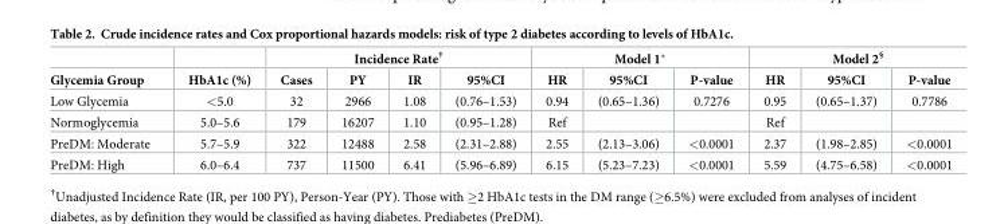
<table><thead><tr><td rowspan="2">Glycemia Group</td><td rowspan="2">HbA1c (%)</td><td colspan="4">Incidence Rate<sup>†</sup></td><td colspan="3">Model 1*</td><td colspan="3">Model 2<sup>§</sup></td></tr><tr><td>Cases</td><td>PY</td><td>IR</td><td>95%CI</td><td>HR</td><td>95%CI</td><td>P-value</td><td>HR</td><td>95%CI</td><td>P-value</td></tr></thead><tbody><tr><td>Low Glycemia</td><td>&lt;5.0</td><td>32</td><td>2966</td><td>1.08</td><td>(0.76–1.53)</td><td>0.94</td><td>(0.65–1.36)</td><td>0.7276</td><td>0.95</td><td>(0.65–1.37)</td><td>0.7786</td></tr><tr><td>Normoglycemia</td><td>5.0–5.6</td><td>179</td><td>16207</td><td>1.10</td><td>(0.95–1.28)</td><td>Ref</td><td></td><td></td><td>Ref</td><td></td><td></td></tr><tr><td>PreDM: Moderate</td><td>5.7–5.9</td><td>322</td><td>12488</td><td>2.58</td><td>(2.31–2.88)</td><td>2.55</td><td>(2.13–3.06)</td><td>&lt;0.0001</td><td>2.37</td><td>(1.98–2.85)</td><td>&lt;0.0001</td></tr><tr><td>PreDM: High</td><td>6.0–6.4</td><td>737</td><td>11500</td><td>6.41</td><td>(5.96–6.89)</td><td>6.15</td><td>(5.23–7.23)</td><td>&lt;0.0001</td><td>5.59</td><td>(4.75–6.58)</td><td>&lt;0.0001</td></tr></tbody></table>